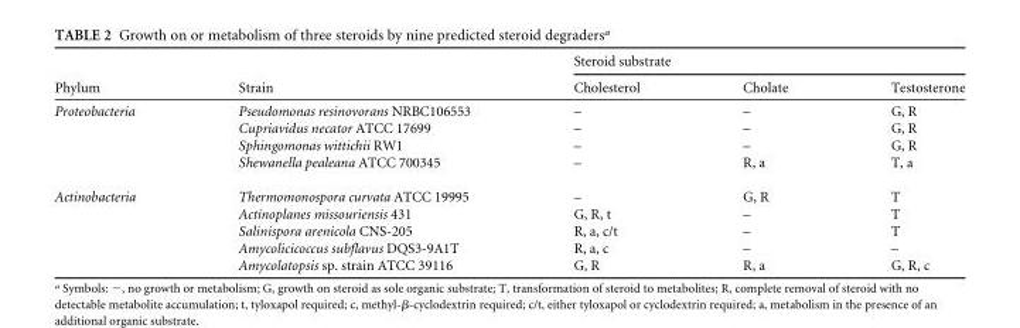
<table><thead><tr><td rowspan="2">Phylum</td><td rowspan="2">Strain</td><td colspan="3">Steroid substrate</td></tr><tr><td>Cholesterol</td><td>Cholate</td><td>Testosterone</td></tr></thead><tbody><tr><td rowspan="4">Proteobacteria</td><td>Pseudomonas resinovorans NRBC106553</td><td>–</td><td>–</td><td>G, R</td></tr><tr><td>Cupriavidus necator ATCC 17699</td><td>–</td><td>–</td><td>G, R</td></tr><tr><td>Sphingomonas wittichii RW1</td><td>–</td><td>–</td><td>G, R</td></tr><tr><td>Shewanella pealeana ATCC 700345</td><td>–</td><td>R, a</td><td>T, a</td></tr><tr><td rowspan="5">Actinobacteria</td><td>Thermomonospora curvata ATCC 19995</td><td>–</td><td>G, R</td><td>T</td></tr><tr><td>Actinoplanes missouriensis 431</td><td>G, R, t</td><td>–</td><td>T</td></tr><tr><td>Salinispora arenicola CNS-205</td><td>R, a, c/t</td><td>–</td><td>T</td></tr><tr><td>Amycolicicoccus subflavus DQS3-9A1T</td><td>R, a, c</td><td>–</td><td>–</td></tr><tr><td>Amycolatopsis sp. strain ATCC 39116</td><td>G, R</td><td>R, a</td><td>G, R, c</td></tr></tbody></table>